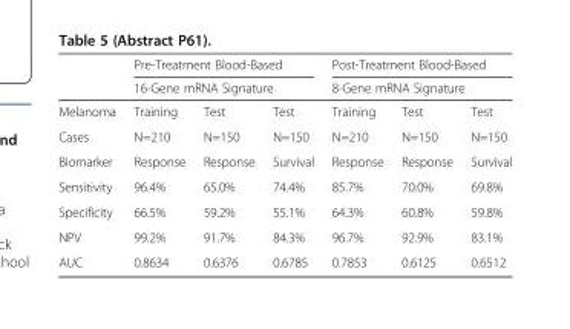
<table><thead><tr><td rowspan="3">Melanoma</td><td rowspan="2" colspan="3">Pre-Treatment Blood-Based 16-Gene mRNA Signature</td><td rowspan="2" colspan="3">Post-Treatment Blood-Based 8-Gene mRNA Signature</td></tr><tr></tr><tr><td>Training</td><td>Test</td><td>Test</td><td>Training</td><td>Test</td><td>Test</td></tr></thead><tbody><tr><td>Cases</td><td>N=210</td><td>N=150</td><td>N=150</td><td>N=210</td><td>N=150</td><td>N=150</td></tr><tr><td>Biomarker</td><td>Response</td><td>Response</td><td>Survival</td><td>Response</td><td>Response</td><td>Survival</td></tr><tr><td>Sensitivity</td><td>96.4%</td><td>65.0%</td><td>74.4%</td><td>85.7%</td><td>70.0%</td><td>69.8%</td></tr><tr><td>Specificity</td><td>66.5%</td><td>59.2%</td><td>55.1%</td><td>64.3%</td><td>60.8%</td><td>59.8%</td></tr><tr><td>NPV</td><td>99.2%</td><td>91.7%</td><td>84.3%</td><td>96.7%</td><td>92.9%</td><td>83.1%</td></tr><tr><td>AUC</td><td>0.8634</td><td>0.6376</td><td>0.6785</td><td>0.7853</td><td>0.6125</td><td>0.6512</td></tr></tbody></table>